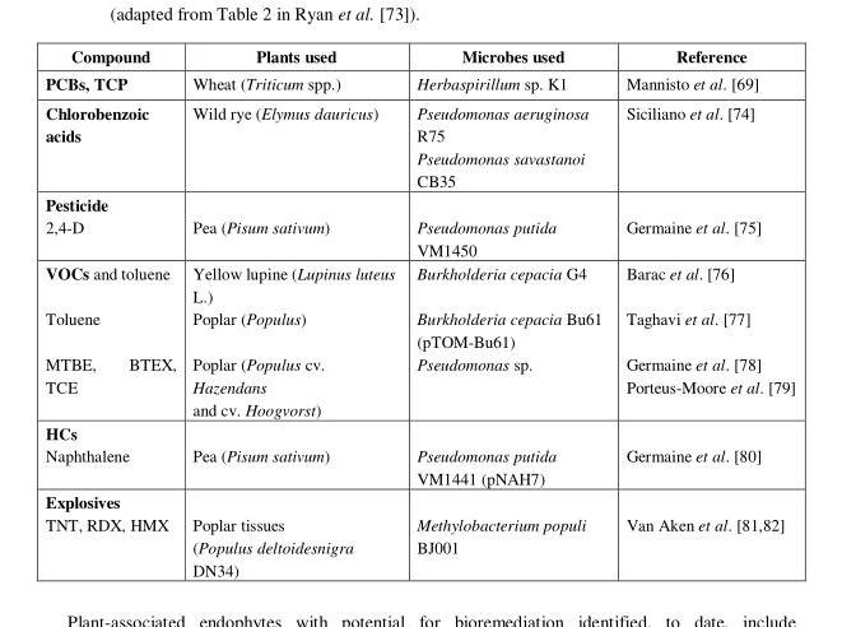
<table><thead><tr><td>Compound</td><td>Plants used</td><td>Microbes used</td><td>Reference</td></tr></thead><tbody><tr><td>PCBs, TCP</td><td>Wheat (Triticum spp.)</td><td>Herbaspirillum sp. K1</td><td>Mannisto et al. [69]</td></tr><tr><td>Chlorobenzoic acids</td><td>Wild rye (Elymus dauricus)</td><td>Pseudomonas aeruginosa R75 Pseudomonas savastanoi CB35</td><td>Siciliano et al. [74]</td></tr><tr><td>Pesticide 2,4-D</td><td>Pea (Pisum sativum)</td><td>Pseudomonas putida VM1450</td><td>Germaine et al. [75]</td></tr><tr><td>VOCs and toluene Toluene MTBE, BTEX, TCE</td><td>Yellow lupine (Lupinus luteus L.) Poplar (Populus) Poplar (Populus cv. Hazendans and cv. Hoogvorst)</td><td>Burkholderia cepacia G4 Burkholderia cepacia Bu61 (pTOM-Bu61) Pseudomonas sp.</td><td>Barac et al. [76] Taghavi et al. [77] Germaine et al. [78] Porteus-Moore et al. [79]</td></tr><tr><td>HCs Naphthalene</td><td>Pea (Pisum sativum)</td><td>Pseudomonas putida VM1441 (pNAH7)</td><td>Germaine et al. [80]</td></tr><tr><td>Explosives TNT, RDX, HMX</td><td>Poplar tissues (Populus deltoidesnigra DN34)</td><td>Methylobacterium populi BJ001</td><td>Van Aken et al. [81,82]</td></tr></tbody></table>